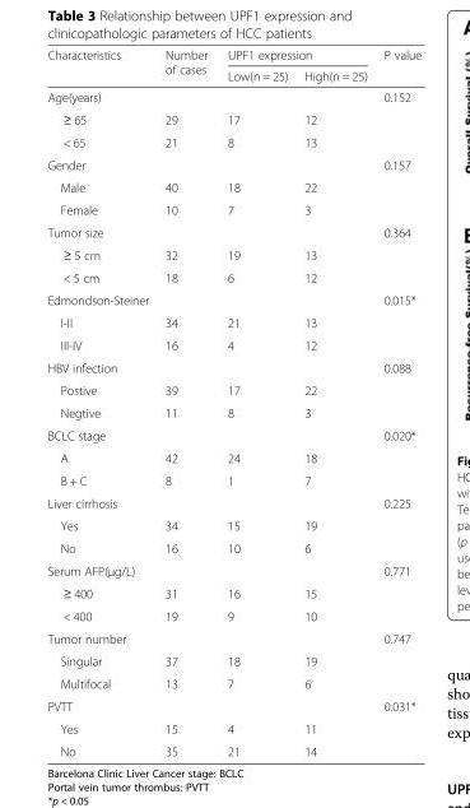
<table><thead><tr><td rowspan="2">Characteristics</td><td rowspan="2">Number of cases</td><td colspan="2">UPF1 expression</td><td rowspan="2">P value</td></tr><tr><td>Low(n = 25)</td><td>High(n = 25)</td></tr></thead><tbody><tr><td colspan="4">Age(years)</td><td rowspan="3">0.152</td></tr><tr><td>≥ 65</td><td>29</td><td>17</td><td>12</td></tr><tr><td>&lt; 65</td><td>21</td><td>8</td><td>13</td></tr><tr><td colspan="4">Gender</td><td rowspan="3">0.157</td></tr><tr><td>Male</td><td>40</td><td>18</td><td>22</td></tr><tr><td>Female</td><td>10</td><td>7</td><td>3</td></tr><tr><td colspan="4">Tumor size</td><td rowspan="3">0.364</td></tr><tr><td>≥ 5 cm</td><td>32</td><td>19</td><td>13</td></tr><tr><td>&lt; 5 cm</td><td>18</td><td>6</td><td>12</td></tr><tr><td colspan="4">Edmondson-Steiner</td><td rowspan="3">0.015*</td></tr><tr><td>I-II</td><td>34</td><td>21</td><td>13</td></tr><tr><td>III-IV</td><td>16</td><td>4</td><td>12</td></tr><tr><td colspan="4">HBV infection</td><td rowspan="3">0.088</td></tr><tr><td>Postive</td><td>39</td><td>17</td><td>22</td></tr><tr><td>Negtive</td><td>11</td><td>8</td><td>3</td></tr><tr><td colspan="4">BCLC stage</td><td rowspan="3">0.020*</td></tr><tr><td>A</td><td>42</td><td>24</td><td>18</td></tr><tr><td>B + C</td><td>8</td><td>1</td><td>7</td></tr><tr><td colspan="4">Liver cirrhosis</td><td rowspan="3">0.225</td></tr><tr><td>Yes</td><td>34</td><td>15</td><td>19</td></tr><tr><td>No</td><td>16</td><td>10</td><td>6</td></tr><tr><td colspan="4">Serum AFP(μg/L)</td><td rowspan="3">0.771</td></tr><tr><td>≥ 400</td><td>31</td><td>16</td><td>15</td></tr><tr><td>&lt; 400</td><td>19</td><td>9</td><td>10</td></tr><tr><td colspan="4">Tumor number</td><td rowspan="3">0.747</td></tr><tr><td>Singular</td><td>37</td><td>18</td><td>19</td></tr><tr><td>Multifocal</td><td>13</td><td>7</td><td>6</td></tr><tr><td colspan="4">PVTT</td><td rowspan="3">0.031*</td></tr><tr><td>Yes</td><td>15</td><td>4</td><td>11</td></tr><tr><td>No</td><td>35</td><td>21</td><td>14</td></tr></tbody></table>